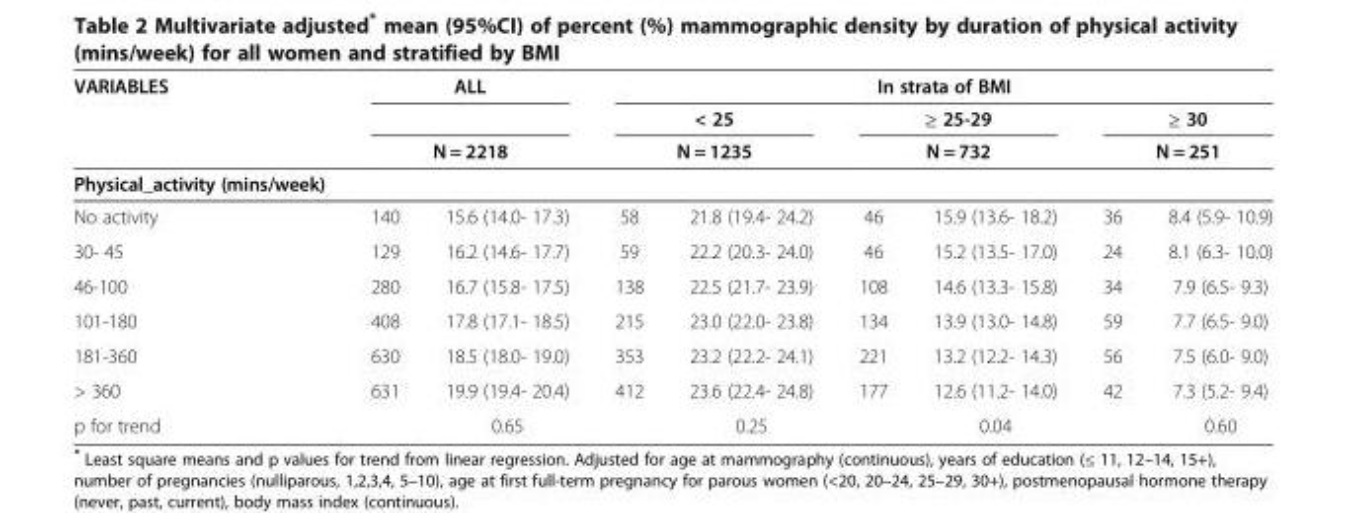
<table><thead><tr><td rowspan="4">VARIABLES Physical_activity (mins/week)</td><td colspan="2">ALL</td><td colspan="6">In strata of BMI</td></tr><tr><td></td><td></td><td rowspan="2" colspan="2">&lt; 25 N = 1235</td><td rowspan="2" colspan="2">≥ 25-29 N = 732</td><td rowspan="2" colspan="2">≥ 30 N = 251</td></tr><tr><td colspan="2">N = 2218</td></tr><tr><td></td><td></td><td></td><td></td><td></td><td></td><td></td><td></td></tr></thead><tbody><tr><td>No activity</td><td>140</td><td>15.6 (14.0- 17.3)</td><td>58</td><td>21.8 (19.4- 24.2)</td><td>46</td><td>15.9 (13.6- 18.2)</td><td>36</td><td>8.4 (5.9- 10.9)</td></tr><tr><td>30- 45</td><td>129</td><td>16.2 (14.6- 17.7)</td><td>59</td><td>22.2 (20.3- 24.0)</td><td>46</td><td>15.2 (13.5- 17.0)</td><td>24</td><td>8.1 (6.3- 10.0)</td></tr><tr><td>46-100</td><td>280</td><td>16.7 (15.8- 17.5)</td><td>138</td><td>22.5 (21.7- 23.9)</td><td>108</td><td>14.6 (13.3- 15.8)</td><td>34</td><td>7.9 (6.5- 9.3)</td></tr><tr><td>101-180</td><td>408</td><td>17.8 (17.1- 18.5)</td><td>215</td><td>23.0 (22.0- 23.8)</td><td>134</td><td>13.9 (13.0- 14.8)</td><td>59</td><td>7.7 (6.5- 9.0)</td></tr><tr><td>181-360</td><td>630</td><td>18.5 (18.0- 19.0)</td><td>353</td><td>23.2 (22.2- 24.1)</td><td>221</td><td>13.2 (12.2- 14.3)</td><td>56</td><td>7.5 (6.0- 9.0)</td></tr><tr><td>&gt; 360</td><td>631</td><td>19.9 (19.4- 20.4)</td><td>412</td><td>23.6 (22.4- 24.8)</td><td>177</td><td>12.6 (11.2- 14.0)</td><td>42</td><td>7.3 (5.2- 9.4)</td></tr><tr><td>p for trend</td><td></td><td>0.65</td><td></td><td>0.25</td><td></td><td>0.04</td><td></td><td>0.60</td></tr></tbody></table>